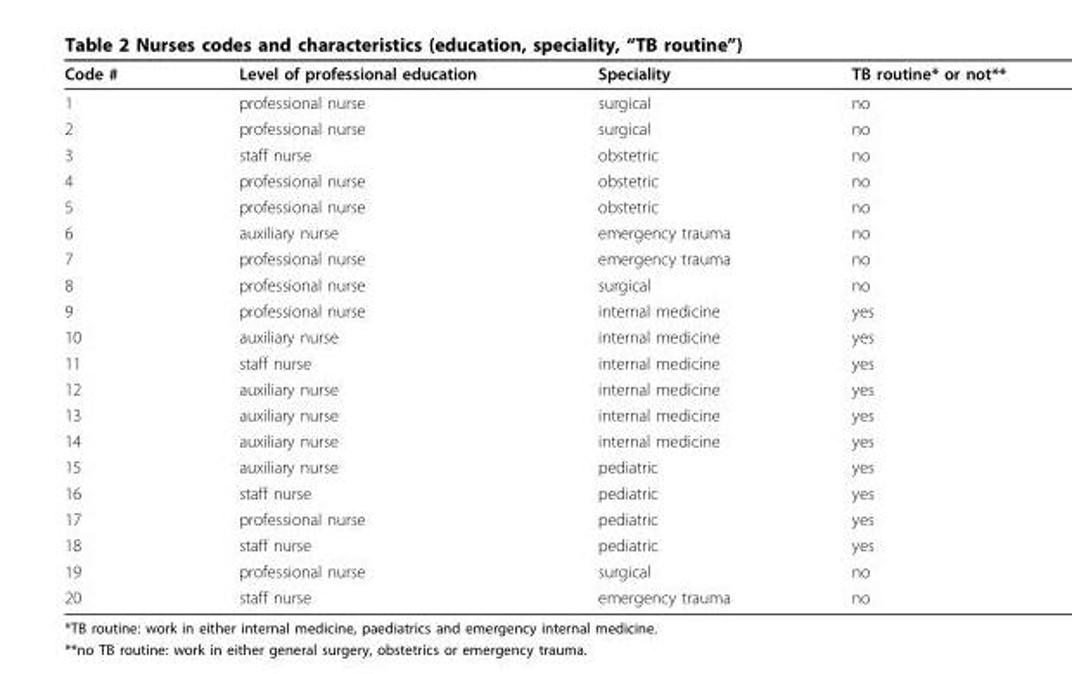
<table><thead><tr><td>Code #</td><td>Level of professional education</td><td>Speciality</td><td>TB routine* or not**</td></tr></thead><tbody><tr><td>1</td><td>professional nurse</td><td>surgical</td><td>no</td></tr><tr><td>2</td><td>professional nurse</td><td>surgical</td><td>no</td></tr><tr><td>3</td><td>staff nurse</td><td>obstetric</td><td>no</td></tr><tr><td>4</td><td>professional nurse</td><td>obstetric</td><td>no</td></tr><tr><td>5</td><td>professional nurse</td><td>obstetric</td><td>no</td></tr><tr><td>6</td><td>auxiliary nurse</td><td>emergency trauma</td><td>no</td></tr><tr><td>7</td><td>professional nurse</td><td>emergency trauma</td><td>no</td></tr><tr><td>8</td><td>professional nurse</td><td>surgical</td><td>no</td></tr><tr><td>9</td><td>professional nurse</td><td>internal medicine</td><td>yes</td></tr><tr><td>10</td><td>auxiliary nurse</td><td>internal medicine</td><td>yes</td></tr><tr><td>11</td><td>staff nurse</td><td>internal medicine</td><td>yes</td></tr><tr><td>12</td><td>auxiliary nurse</td><td>internal medicine</td><td>yes</td></tr><tr><td>13</td><td>auxiliary nurse</td><td>internal medicine</td><td>yes</td></tr><tr><td>14</td><td>auxiliary nurse</td><td>internal medicine</td><td>yes</td></tr><tr><td>15</td><td>auxiliary nurse</td><td>pediatric</td><td>yes</td></tr><tr><td>16</td><td>staff nurse</td><td>pediatric</td><td>yes</td></tr><tr><td>17</td><td>professional nurse</td><td>pediatric</td><td>yes</td></tr><tr><td>18</td><td>staff nurse</td><td>pediatric</td><td>yes</td></tr><tr><td>19</td><td>professional nurse</td><td>surgical</td><td>no</td></tr><tr><td>20</td><td>staff nurse</td><td>emergency trauma</td><td>no</td></tr></tbody></table>